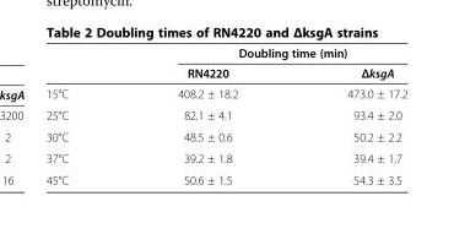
<table><thead><tr><td rowspan="2"></td><td colspan="2">Doubling time (min)</td></tr><tr><td>RN4220</td><td>ΔksgA</td></tr></thead><tbody><tr><td>15°C</td><td>408.2 ± 18.2</td><td>473.0 ± 17.2</td></tr><tr><td>25°C</td><td>82.1 ± 4.1</td><td>93.4 ± 2.0</td></tr><tr><td>30°C</td><td>48.5 ± 0.6</td><td>50.2 ± 2.2</td></tr><tr><td>37°C</td><td>39.2 ± 1.8</td><td>39.4 ± 1.7</td></tr><tr><td>45°C</td><td>50.6 ± 1.5</td><td>54.3 ± 3.5</td></tr></tbody></table>